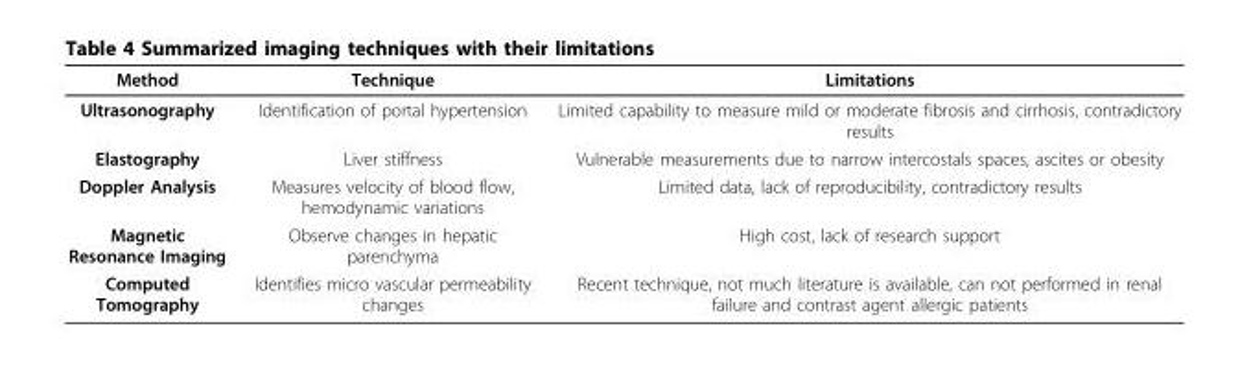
<table><thead><tr><td>Method</td><td>Technique</td><td>Limitations</td></tr></thead><tbody><tr><td>Ultrasonography</td><td>Identification of portal hypertension</td><td>Limited capability to measure mild or moderate fibrosis and cirrhosis, contradictory results</td></tr><tr><td>Elastography</td><td>Liver stiffness</td><td>Vulnerable measurements due to narrow intercostals spaces, ascites or obesity</td></tr><tr><td>Doppler Analysis</td><td>Measures velocity of blood flow, hemodynamic variations</td><td>Limited data, lack of reproducibility, contradictory results</td></tr><tr><td>Magnetic Resonance Imaging</td><td>Observe changes in hepatic parenchyma</td><td>High cost, lack of research support</td></tr><tr><td>Computed Tomography</td><td>Identifies micro vascular permeability changes</td><td>Recent technique, not much literature is available, can not performed in renal failure and contrast agent allergic patients</td></tr></tbody></table>